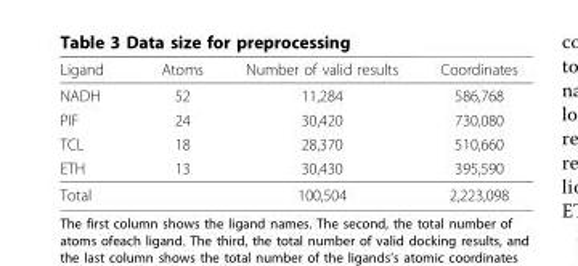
<table><thead><tr><td>Ligand</td><td>Atoms</td><td>Number of valid results</td><td>Coordinates</td></tr></thead><tbody><tr><td>NADH</td><td>52</td><td>11,284</td><td>586,768</td></tr><tr><td>PIF</td><td>24</td><td>30,420</td><td>730,080</td></tr><tr><td>TCL</td><td>18</td><td>28,370</td><td>510,660</td></tr><tr><td>ETH</td><td>13</td><td>30,430</td><td>395,590</td></tr><tr><td>Total</td><td></td><td>100,504</td><td>2,223,098</td></tr></tbody></table>